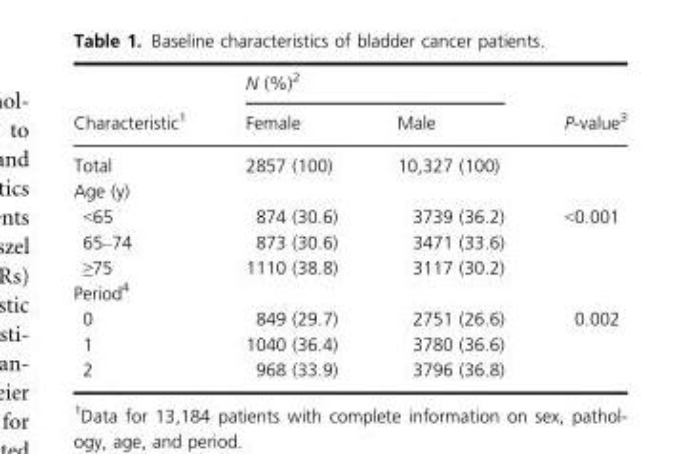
<table><thead><tr><td rowspan="2">Characteristic<sup>1</sup></td><td colspan="2">N (%)<sup>2</sup></td><td rowspan="2">P-value<sup>3</sup></td></tr><tr><td>Female</td><td>Male</td></tr></thead><tbody><tr><td>Total</td><td>2857 (100)</td><td>10,327 (100)</td><td></td></tr><tr><td colspan="4">Age (y)</td></tr><tr><td>&lt;65</td><td>874 (30.6)</td><td>3739 (36.2)</td><td rowspan="3">&lt;0.001</td></tr><tr><td>65–74</td><td>873 (30.6)</td><td>3471 (33.6)</td></tr><tr><td>≥75</td><td>1110 (38.8)</td><td>3117 (30.2)</td></tr><tr><td colspan="4">Period<sup>4</sup></td></tr><tr><td>0</td><td>849 (29.7)</td><td>2751 (26.6)</td><td rowspan="3">0.002</td></tr><tr><td>1</td><td>1040 (36.4)</td><td>3780 (36.6)</td></tr><tr><td>2</td><td>968 (33.9)</td><td>3796 (36.8)</td></tr></tbody></table>